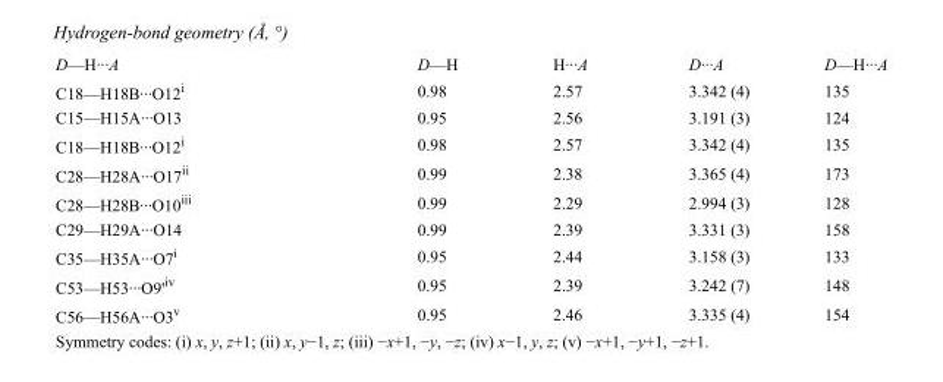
<table><tbody><tr><td>D—H···A</td><td>D—H</td><td>H···A</td><td>D···A</td><td>D—H···A</td></tr><tr><td>C18—H18B···O12<sup>i</sup></td><td>0.98</td><td>2.57</td><td>3.342 (4)</td><td>135</td></tr><tr><td>C15—H15A···O13</td><td>0.95</td><td>2.56</td><td>3.191 (3)</td><td>124</td></tr><tr><td>C18—H18B···O12<sup>i</sup></td><td>0.98</td><td>2.57</td><td>3.342 (4)</td><td>135</td></tr><tr><td>C28—H28A···O17<sup>ii</sup></td><td>0.99</td><td>2.38</td><td>3.365 (4)</td><td>173</td></tr><tr><td>C28—H28B···O10<sup>iii</sup></td><td>0.99</td><td>2.29</td><td>2.994 (3)</td><td>128</td></tr><tr><td>C29—H29A···O14</td><td>0.99</td><td>2.39</td><td>3.331 (3)</td><td>158</td></tr><tr><td>C35—H35A···O7<sup>i</sup></td><td>0.95</td><td>2.44</td><td>3.158 (3)</td><td>133</td></tr><tr><td>C53—H53···O9&#x27;<sup>iv</sup></td><td>0.95</td><td>2.39</td><td>3.242 (7)</td><td>148</td></tr><tr><td>C56—H56A···O3<sup>v</sup></td><td>0.95</td><td>2.46</td><td>3.335 (4)</td><td>154</td></tr></tbody></table>